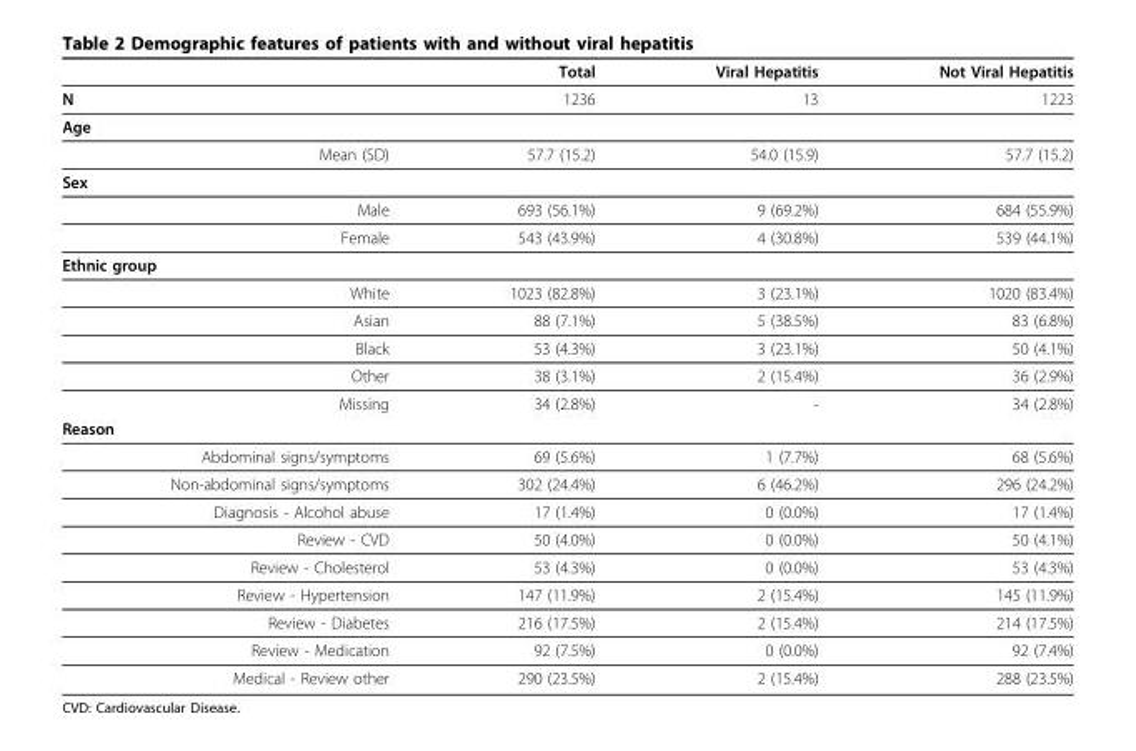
<table><thead><tr><td></td><td>Total</td><td>Viral Hepatitis</td><td>Not Viral Hepatitis</td></tr></thead><tbody><tr><td>N</td><td>1236</td><td>13</td><td>1223</td></tr><tr><td colspan="4">Age</td></tr><tr><td>Mean (SD)</td><td>57.7 (15.2)</td><td>54.0 (15.9)</td><td>57.7 (15.2)</td></tr><tr><td colspan="4">Sex</td></tr><tr><td>Male</td><td>693 (56.1%)</td><td>9 (69.2%)</td><td>684 (55.9%)</td></tr><tr><td>Female</td><td>543 (43.9%)</td><td>4 (30.8%)</td><td>539 (44.1%)</td></tr><tr><td colspan="4">Ethnic group</td></tr><tr><td>White</td><td>1023 (82.8%)</td><td>3 (23.1%)</td><td>1020 (83.4%)</td></tr><tr><td>Asian</td><td>88 (7.1%)</td><td>5 (38.5%)</td><td>83 (6.8%)</td></tr><tr><td>Black</td><td>53 (4.3%)</td><td>3 (23.1%)</td><td>50 (4.1%)</td></tr><tr><td>Other</td><td>38 (3.1%)</td><td>2 (15.4%)</td><td>36 (2.9%)</td></tr><tr><td>Missing</td><td>34 (2.8%)</td><td>-</td><td>34 (2.8%)</td></tr><tr><td colspan="4">Reason</td></tr><tr><td>Abdominal signs/symptoms</td><td>69 (5.6%)</td><td>1 (7.7%)</td><td>68 (5.6%)</td></tr><tr><td>Non-abdominal signs/symptoms</td><td>302 (24.4%)</td><td>6 (46.2%)</td><td>296 (24.2%)</td></tr><tr><td>Diagnosis - Alcohol abuse</td><td>17 (1.4%)</td><td>0 (0.0%)</td><td>17 (1.4%)</td></tr><tr><td>Review - CVD</td><td>50 (4.0%)</td><td>0 (0.0%)</td><td>50 (4.1%)</td></tr><tr><td>Review - Cholesterol</td><td>53 (4.3%)</td><td>0 (0.0%)</td><td>53 (4.3%)</td></tr><tr><td>Review - Hypertension</td><td>147 (11.9%)</td><td>2 (15.4%)</td><td>145 (11.9%)</td></tr><tr><td>Review - Diabetes</td><td>216 (17.5%)</td><td>2 (15.4%)</td><td>214 (17.5%)</td></tr><tr><td>Review - Medication</td><td>92 (7.5%)</td><td>0 (0.0%)</td><td>92 (7.4%)</td></tr><tr><td>Medical - Review other</td><td>290 (23.5%)</td><td>2 (15.4%)</td><td>288 (23.5%)</td></tr></tbody></table>